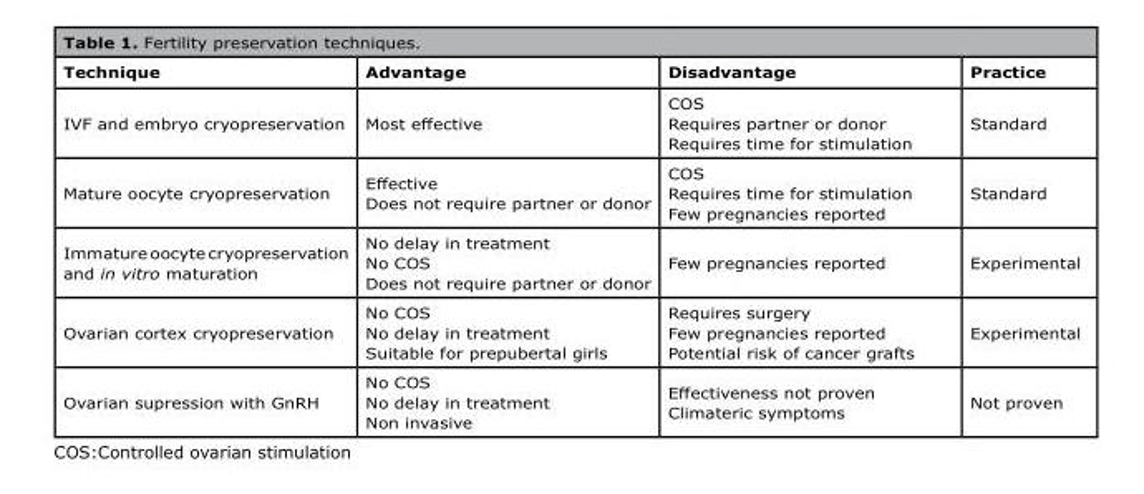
<table><thead><tr><td>Technique</td><td>Advantage</td><td>Disadvantage</td><td>Practice</td></tr></thead><tbody><tr><td>IVF and embryo cryopreservation</td><td>Most effective</td><td>COS Requires partner or donor Requires time for stimulation</td><td>Standard</td></tr><tr><td>Mature oocyte cryopreservation</td><td>Effective Does not require partner or donor</td><td>COS Requires time for stimulation Few pregnancies reported</td><td>Standard</td></tr><tr><td>Immature oocyte cryopreservation and in vitro maturation</td><td>No delay in treatment No COS Does not require partner or donor</td><td>Few pregnancies reported</td><td>Experimental</td></tr><tr><td>Ovarian cortex cryopreservation</td><td>No COS No delay in treatment Suitable for prepubertal girls</td><td>Requires surgery Few pregnancies reported Potential risk of cancer grafts</td><td>Experimental</td></tr><tr><td>Ovarian supression with GnRH</td><td>No COS No delay in treatment Non invasive</td><td>Effectiveness not proven Climateric symptoms</td><td>Not proven</td></tr></tbody></table>